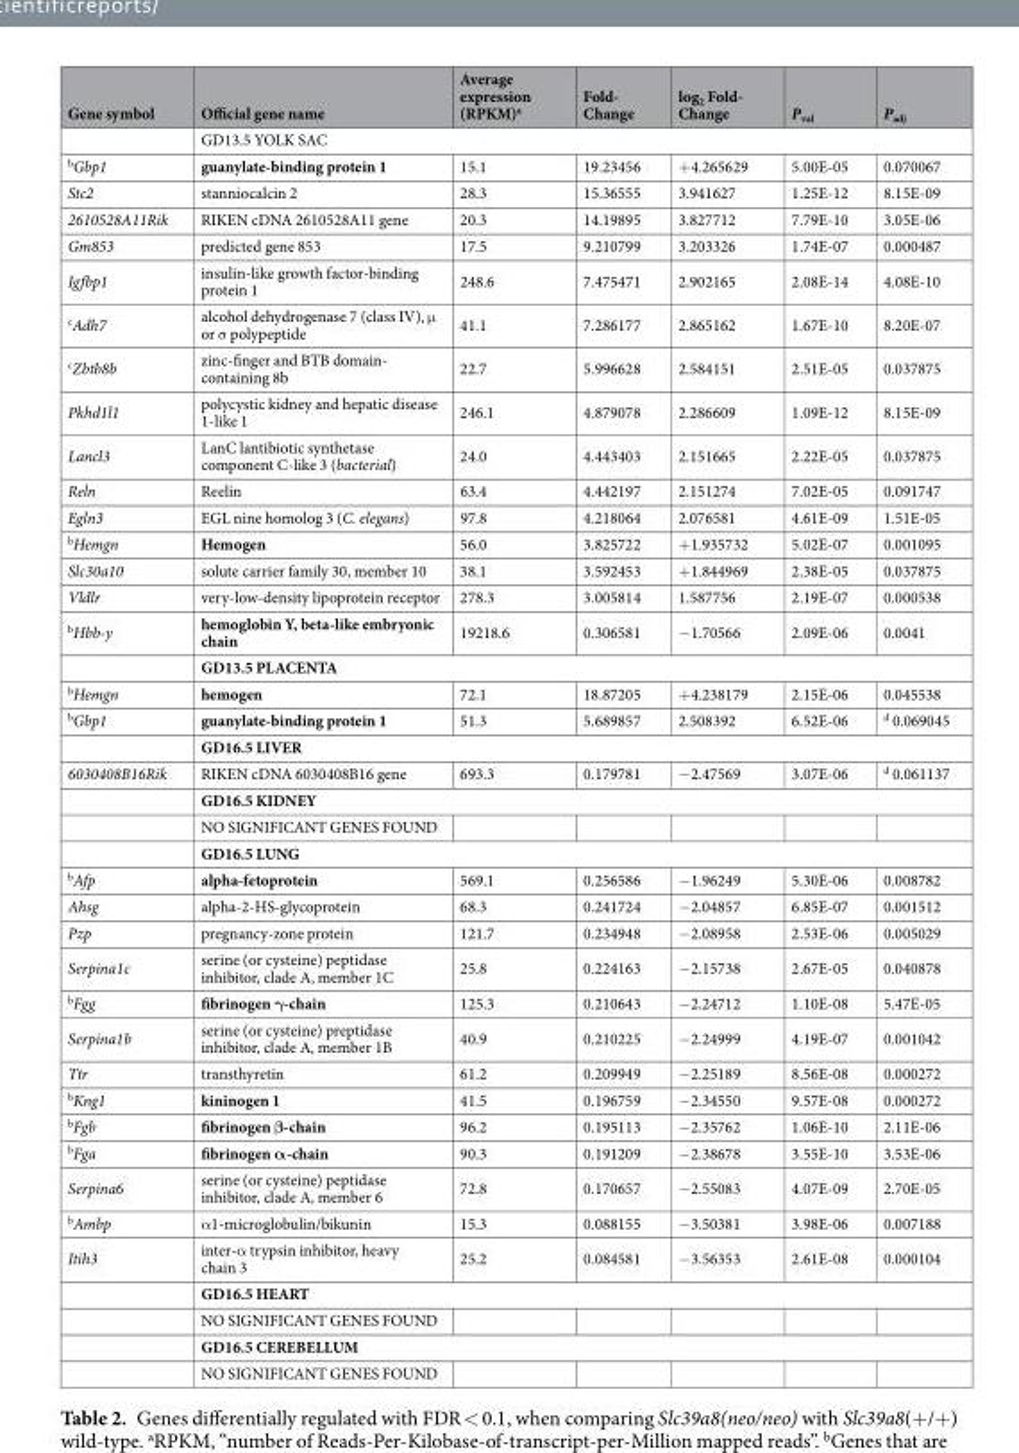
<table><thead><tr><td>Gene symbol</td><td>Official gene name</td><td>Average expression (RPKM)<sup>a</sup></td><td>Fold- Change</td><td>log<sub>2</sub> Fold- Change</td><td>P<sub>val</sub></td><td>P<sub>adj</sub></td></tr></thead><tbody><tr><td></td><td colspan="6">GD13.5 YOLK SAC</td></tr><tr><td><sup>b</sup>Gbp1</td><td>guanylate-binding protein 1</td><td>15.1</td><td>19.23456</td><td>+4.265629</td><td>5.00E-05</td><td>0.070067</td></tr><tr><td>Stc2</td><td>stanniocalcin 2</td><td>28.3</td><td>15.36555</td><td>3.941627</td><td>1.25E-12</td><td>8.15E-09</td></tr><tr><td>2610528A11Rik</td><td>RIKEN cDNA 2610528A11 gene</td><td>20.3</td><td>14.19895</td><td>3.827712</td><td>7.79E-10</td><td>3.05E-06</td></tr><tr><td>Gm853</td><td>predicted gene 853</td><td>17.5</td><td>9.210799</td><td>3.203326</td><td>1.74E-07</td><td>0.000487</td></tr><tr><td>Igfbp1</td><td>insulin-like growth factor-binding protein 1</td><td>248.6</td><td>7.475471</td><td>2.902165</td><td>2.08E-14</td><td>4.08E-10</td></tr><tr><td><sup>c</sup>Adh7</td><td>alcohol dehydrogenase 7 (class IV), μ or σ polypeptide</td><td>41.1</td><td>7.286177</td><td>2.865162</td><td>1.67E-10</td><td>8.20E-07</td></tr><tr><td><sup>c</sup>Zbtb8b</td><td>zinc-finger and BTB domain- containing 8b</td><td>22.7</td><td>5.996628</td><td>2.584151</td><td>2.51E-05</td><td>0.037875</td></tr><tr><td>Pkhd1l1</td><td>polycystic kidney and hepatic disease 1-like 1</td><td>246.1</td><td>4.879078</td><td>2.286609</td><td>1.09E-12</td><td>8.15E-09</td></tr><tr><td>Lancl3</td><td>LanC lantibiotic synthetase component C-like 3 (bacterial)</td><td>24.0</td><td>4.443403</td><td>2.151665</td><td>2.22E-05</td><td>0.037875</td></tr><tr><td>Reln</td><td>Reelin</td><td>63.4</td><td>4.442197</td><td>2.151274</td><td>7.02E-05</td><td>0.091747</td></tr><tr><td>Egln3</td><td>EGL nine homolog 3 (C. elegans)</td><td>97.8</td><td>4.218064</td><td>2.076581</td><td>4.61E-09</td><td>1.51E-05</td></tr><tr><td><sup>b</sup>Hemgn</td><td>Hemogen</td><td>56.0</td><td>3.825722</td><td>+1.935732</td><td>5.02E-07</td><td>0.001095</td></tr><tr><td>Slc30a10</td><td>solute carrier family 30, member 10</td><td>38.1</td><td>3.592453</td><td>+1.844969</td><td>2.38E-05</td><td>0.037875</td></tr><tr><td>Vldlr</td><td>very-low-density lipoprotein receptor</td><td>278.3</td><td>3.005814</td><td>1.587756</td><td>2.19E-07</td><td>0.000538</td></tr><tr><td rowspan="2"><sup>b</sup>Hbb-y</td><td>hemoglobin Y, beta-like embryonic chain</td><td>19218.6</td><td>0.306581</td><td>−1.70566</td><td>2.09E-06</td><td>0.0041</td></tr><tr><td colspan="6">GD13.5 PLACENTA</td></tr><tr><td><sup>b</sup>Hemgn</td><td>hemogen</td><td>72.1</td><td>18.87205</td><td>+4.238179</td><td>2.15E-06</td><td>0.045538</td></tr><tr><td rowspan="2"><sup>b</sup>Gbp1</td><td>guanylate-binding protein 1</td><td>51.3</td><td>5.689857</td><td>2.508392</td><td>6.52E-06</td><td><sup>d</sup> 0.069045</td></tr><tr><td colspan="6">GD16.5 LIVER</td></tr><tr><td rowspan="4">6030408B16Rik</td><td>RIKEN cDNA 6030408B16 gene</td><td>693.3</td><td>0.179781</td><td>−2.47569</td><td>3.07E-06</td><td><sup>d</sup> 0.061137</td></tr><tr><td colspan="6">GD16.5 KIDNEY</td></tr><tr><td>NO SIGNIFICANT GENES FOUND</td><td></td><td></td><td></td><td></td><td></td></tr><tr><td colspan="6">GD16.5 LUNG</td></tr><tr><td><sup>b</sup>Afp</td><td>alpha-fetoprotein</td><td>569.1</td><td>0.256586</td><td>−1.96249</td><td>5.30E-06</td><td>0.008782</td></tr><tr><td>Ahsg</td><td>alpha-2-HS-glycoprotein</td><td>68.3</td><td>0.241724</td><td>−2.04857</td><td>6.85E-07</td><td>0.001512</td></tr><tr><td>Pzp</td><td>pregnancy-zone protein</td><td>121.7</td><td>0.234948</td><td>−2.08958</td><td>2.53E-06</td><td>0.005029</td></tr><tr><td>Serpina1c</td><td>serine (or cysteine) peptidase inhibitor, clade A, member 1C</td><td>25.8</td><td>0.224163</td><td>−2.15738</td><td>2.67E-05</td><td>0.040878</td></tr><tr><td><sup>b</sup>Fgg</td><td>fibrinogen γ-chain</td><td>125.3</td><td>0.210643</td><td>−2.24712</td><td>1.10E-08</td><td>5.47E-05</td></tr><tr><td>Serpina1b</td><td>serine (or cysteine) preptidase inhibitor, clade A, member 1B</td><td>40.9</td><td>0.210225</td><td>−2.24999</td><td>4.19E-07</td><td>0.001042</td></tr><tr><td>Ttr</td><td>transthyretin</td><td>61.2</td><td>0.209949</td><td>−2.25189</td><td>8.56E-08</td><td>0.000272</td></tr><tr><td><sup>b</sup>Kng1</td><td>kininogen 1</td><td>41.5</td><td>0.196759</td><td>−2.34550</td><td>9.57E-08</td><td>0.000272</td></tr><tr><td><sup>b</sup>Fgb</td><td>fibrinogen β-chain</td><td>96.2</td><td>0.195113</td><td>−2.35762</td><td>1.06E-10</td><td>2.11E-06</td></tr><tr><td><sup>b</sup>Fga</td><td>fibrinogen α-chain</td><td>90.3</td><td>0.191209</td><td>−2.38678</td><td>3.55E-10</td><td>3.53E-06</td></tr><tr><td>Serpina6</td><td>serine (or cysteine) peptidase inhibitor, clade A, member 6</td><td>72.8</td><td>0.170657</td><td>−2.55083</td><td>4.07E-09</td><td>2.70E-05</td></tr><tr><td><sup>b</sup>Ambp</td><td>α1-microglobulin/bikunin</td><td>15.3</td><td>0.088155</td><td>−3.50381</td><td>3.98E-06</td><td>0.007188</td></tr><tr><td rowspan="5">Itih3</td><td>inter-α trypsin inhibitor, heavy chain 3</td><td>25.2</td><td>0.084581</td><td>−3.56353</td><td>2.61E-08</td><td>0.000104</td></tr><tr><td colspan="6">GD16.5 HEART</td></tr><tr><td>NO SIGNIFICANT GENES FOUND</td><td></td><td></td><td></td><td></td><td></td></tr><tr><td colspan="6">GD16.5 CEREBELLUM</td></tr><tr><td>NO SIGNIFICANT GENES FOUND</td><td></td><td></td><td></td><td></td><td></td></tr></tbody></table>